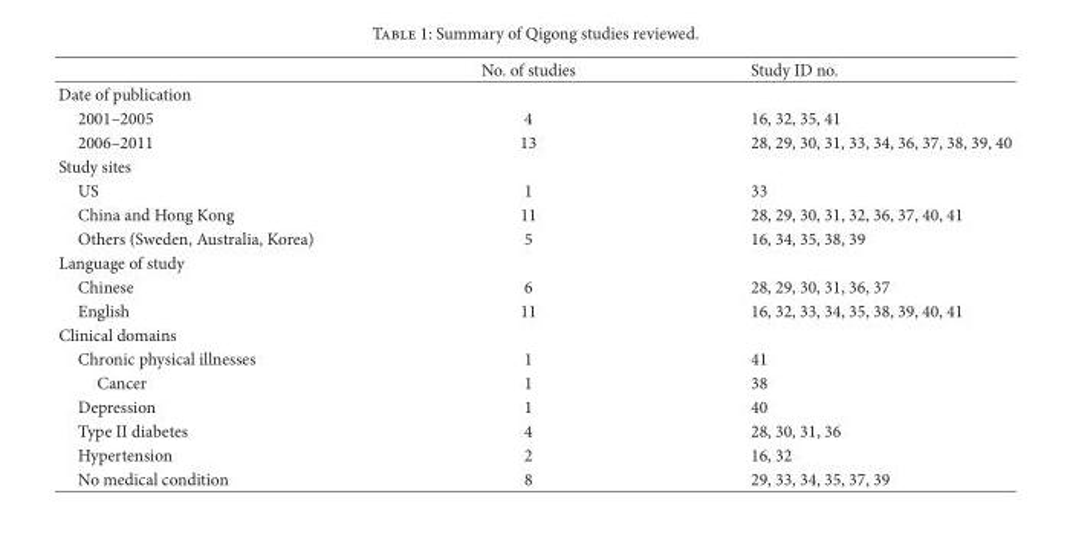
<table><thead><tr><td></td><td>No. of studies</td><td>Study ID no.</td></tr></thead><tbody><tr><td colspan="3">Date of publication</td></tr><tr><td>2001–2005</td><td>4</td><td>16, 32, 35, 41</td></tr><tr><td>2006–2011</td><td>13</td><td>28, 29, 30, 31, 33, 34, 36, 37, 38, 39, 40</td></tr><tr><td colspan="3">Study sites</td></tr><tr><td>US</td><td>1</td><td>33</td></tr><tr><td>China and Hong Kong</td><td>11</td><td>28, 29, 30, 31, 32, 36, 37, 40, 41</td></tr><tr><td>Others (Sweden, Australia, Korea)</td><td>5</td><td>16, 34, 35, 38, 39</td></tr><tr><td colspan="3">Language of study</td></tr><tr><td>Chinese</td><td>6</td><td>28, 29, 30, 31, 36, 37</td></tr><tr><td>English</td><td>11</td><td>16, 32, 33, 34, 35, 38, 39, 40, 41</td></tr><tr><td colspan="3">Clinical domains</td></tr><tr><td>Chronic physical illnesses</td><td>1</td><td>41</td></tr><tr><td>Cancer</td><td>1</td><td>38</td></tr><tr><td>Depression</td><td>1</td><td>40</td></tr><tr><td>Type II diabetes</td><td>4</td><td>28, 30, 31, 36</td></tr><tr><td>Hypertension</td><td>2</td><td>16, 32</td></tr><tr><td>No medical condition</td><td>8</td><td>29, 33, 34, 35, 37, 39</td></tr></tbody></table>